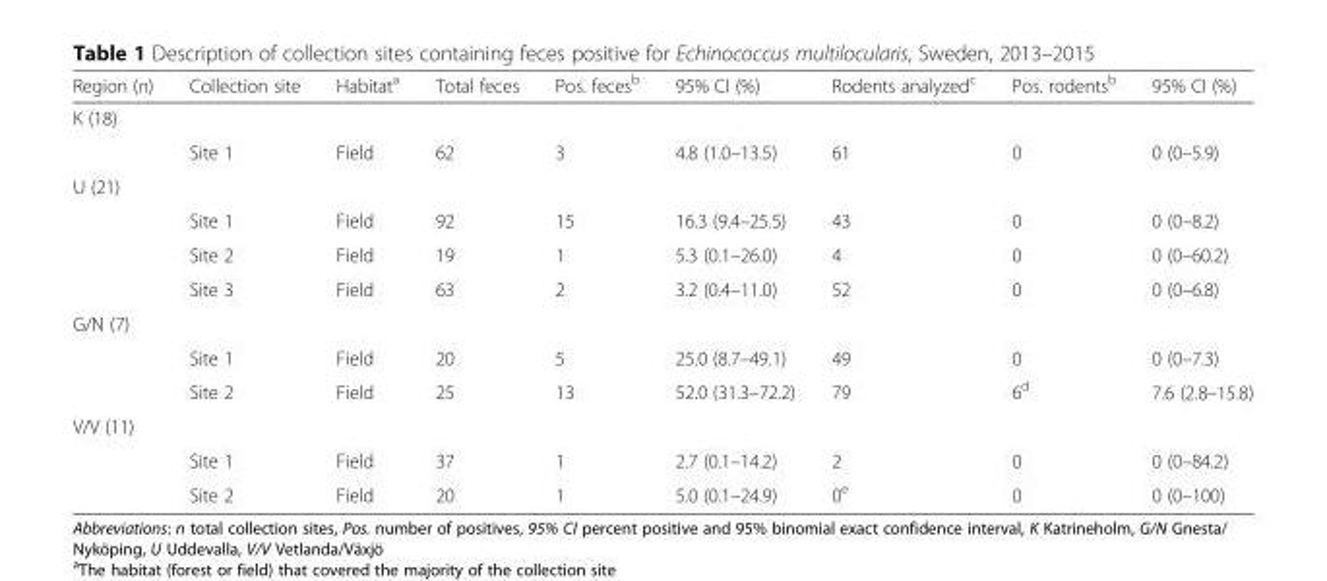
<table><thead><tr><td>Region (n)</td><td>Collection site</td><td>Habitat<sup>a</sup></td><td>Total feces</td><td>Pos. feces<sup>b</sup></td><td>95% CI (%)</td><td>Rodents analyzed<sup>c</sup></td><td>Pos. rodents<sup>b</sup></td><td>95% CI (%)</td></tr></thead><tbody><tr><td colspan="9">K (18)</td></tr><tr><td></td><td>Site 1</td><td>Field</td><td>62</td><td>3</td><td>4.8 (1.0–13.5)</td><td>61</td><td>0</td><td>0 (0–5.9)</td></tr><tr><td colspan="9">U (21)</td></tr><tr><td></td><td>Site 1</td><td>Field</td><td>92</td><td>15</td><td>16.3 (9.4–25.5)</td><td>43</td><td>0</td><td>0 (0–8.2)</td></tr><tr><td></td><td>Site 2</td><td>Field</td><td>19</td><td>1</td><td>5.3 (0.1–26.0)</td><td>4</td><td>0</td><td>0 (0–60.2)</td></tr><tr><td></td><td>Site 3</td><td>Field</td><td>63</td><td>2</td><td>3.2 (0.4–11.0)</td><td>52</td><td>0</td><td>0 (0–6.8)</td></tr><tr><td colspan="9">G/N (7)</td></tr><tr><td></td><td>Site 1</td><td>Field</td><td>20</td><td>5</td><td>25.0 (8.7–49.1)</td><td>49</td><td>0</td><td>0 (0–7.3)</td></tr><tr><td></td><td>Site 2</td><td>Field</td><td>25</td><td>13</td><td>52.0 (31.3–72.2)</td><td>79</td><td>6<sup>d</sup></td><td>7.6 (2.8–15.8)</td></tr><tr><td colspan="9">V/V (11)</td></tr><tr><td></td><td>Site 1</td><td>Field</td><td>37</td><td>1</td><td>2.7 (0.1–14.2)</td><td>2</td><td>0</td><td>0 (0–84.2)</td></tr><tr><td></td><td>Site 2</td><td>Field</td><td>20</td><td>1</td><td>5.0 (0.1–24.9)</td><td>0<sup>e</sup></td><td>0</td><td>0 (0–100)</td></tr></tbody></table>